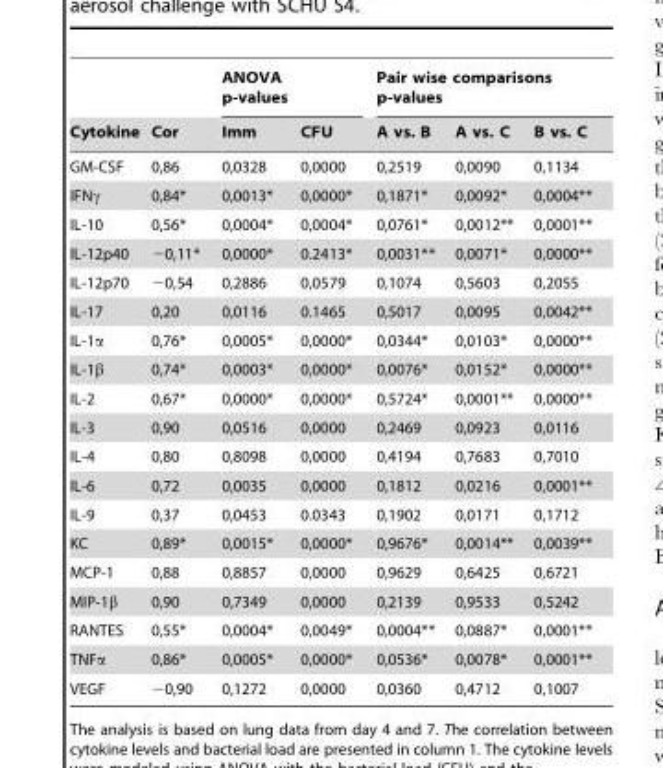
<table><thead><tr><td rowspan="2">Cytokine</td><td rowspan="2">Cor</td><td colspan="2">ANOVA p-values</td><td colspan="3">Pair wise comparisons p-values</td></tr><tr><td>Imm</td><td>CFU</td><td>A vs. B</td><td>A vs. C</td><td>B vs. C</td></tr></thead><tbody><tr><td>GM-CSF</td><td>0,86</td><td>0,0328</td><td>0,0000</td><td>0,2519</td><td>0,0090</td><td>0,1134</td></tr><tr><td>IFNγ</td><td>0,84*</td><td>0,0013*</td><td>0,0000*</td><td>0,1871*</td><td>0,0092*</td><td>0,0004**</td></tr><tr><td>IL-10</td><td>0,56*</td><td>0,0004*</td><td>0,0004*</td><td>0,0761*</td><td>0,0012**</td><td>0,0001**</td></tr><tr><td>IL-12p40</td><td>−0,11*</td><td>0,0000*</td><td>0.2413*</td><td>0,0031**</td><td>0,0071*</td><td>0,0000**</td></tr><tr><td>IL-12p70</td><td>−0,54</td><td>0,2886</td><td>0,0579</td><td>0,1074</td><td>0,5603</td><td>0,2055</td></tr><tr><td>IL-17</td><td>0,20</td><td>0,0116</td><td>0.1465</td><td>0,5017</td><td>0,0095</td><td>0,0042**</td></tr><tr><td>IL-1α</td><td>0,76*</td><td>0,0005*</td><td>0,0000*</td><td>0,0344*</td><td>0,0103*</td><td>0,0000**</td></tr><tr><td>IL-1β</td><td>0,74*</td><td>0,0003*</td><td>0,0000*</td><td>0,0076*</td><td>0,0152*</td><td>0,0000**</td></tr><tr><td>IL-2</td><td>0,67*</td><td>0,0000*</td><td>0,0000*</td><td>0,5724*</td><td>0,0001**</td><td>0,0000**</td></tr><tr><td>IL-3</td><td>0,90</td><td>0,0516</td><td>0,0000</td><td>0,2469</td><td>0,0923</td><td>0,0116</td></tr><tr><td>IL-4</td><td>0,80</td><td>0,8098</td><td>0,0000</td><td>0,4194</td><td>0,7683</td><td>0,7010</td></tr><tr><td>IL-6</td><td>0,72</td><td>0,0035</td><td>0,0000</td><td>0,1812</td><td>0,0216</td><td>0,0001**</td></tr><tr><td>IL-9</td><td>0,37</td><td>0,0453</td><td>0.0343</td><td>0,1902</td><td>0,0171</td><td>0,1712</td></tr><tr><td>KC</td><td>0,89*</td><td>0,0015*</td><td>0,0000*</td><td>0,9676*</td><td>0,0014**</td><td>0,0039**</td></tr><tr><td>MCP-1</td><td>0,88</td><td>0,8857</td><td>0,0000</td><td>0,9629</td><td>0,6425</td><td>0,6721</td></tr><tr><td>MIP-1β</td><td>0,90</td><td>0,7349</td><td>0,0000</td><td>0,2139</td><td>0,9533</td><td>0,5242</td></tr><tr><td>RANTES</td><td>0,55*</td><td>0,0004*</td><td>0,0049*</td><td>0,0004**</td><td>0,0887*</td><td>0,0001**</td></tr><tr><td>TNFα</td><td>0,86*</td><td>0,0005*</td><td>0,0000*</td><td>0,0536*</td><td>0,0078*</td><td>0,0001**</td></tr><tr><td>VEGF</td><td>−0,90</td><td>0,1272</td><td>0,0000</td><td>0,0360</td><td>0,4712</td><td>0,1007</td></tr></tbody></table>